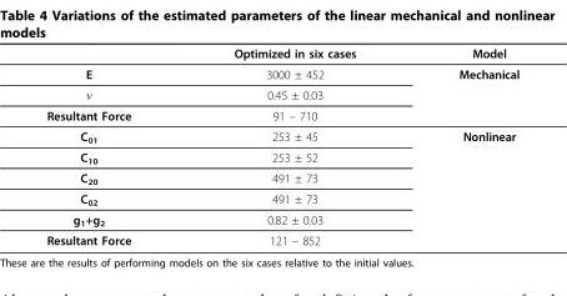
<table><thead><tr><td></td><td>Optimized in six cases</td><td>Model</td></tr></thead><tbody><tr><td>E</td><td>3000 ± 452</td><td>Mechanical</td></tr><tr><td>ν</td><td>0.45 ± 0.03</td><td></td></tr><tr><td>Resultant Force</td><td>91 – 710</td><td></td></tr><tr><td>C<sub>01</sub></td><td>253 ± 45</td><td>Nonlinear</td></tr><tr><td>C<sub>10</sub></td><td>253 ± 52</td><td></td></tr><tr><td>C<sub>20</sub></td><td>491 ± 73</td><td></td></tr><tr><td>C<sub>02</sub></td><td>491 ± 73</td><td></td></tr><tr><td>g<sub>1</sub>+g<sub>2</sub></td><td>0.82 ± 0.03</td><td></td></tr><tr><td>Resultant Force</td><td>121 – 852</td><td></td></tr></tbody></table>